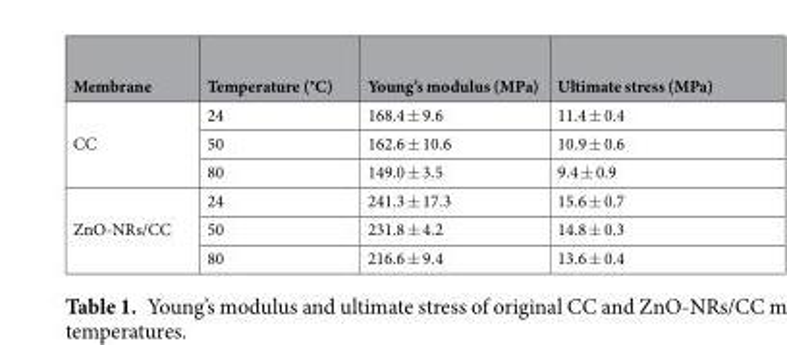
<table><thead><tr><td>Membrane</td><td>Temperature (°C)</td><td>Young’s modulus (MPa)</td><td>Ultimate stress (MPa)</td></tr></thead><tbody><tr><td rowspan="3">CC</td><td>24</td><td>168.4 ± 9.6</td><td>11.4 ± 0.4</td></tr><tr><td>50</td><td>162.6 ± 10.6</td><td>10.9 ± 0.6</td></tr><tr><td>80</td><td>149.0 ± 3.5</td><td>9.4 ± 0.9</td></tr><tr><td rowspan="3">ZnO-NRs/CC</td><td>24</td><td>241.3 ± 17.3</td><td>15.6 ± 0.7</td></tr><tr><td>50</td><td>231.8 ± 4.2</td><td>14.8 ± 0.3</td></tr><tr><td>80</td><td>216.6 ± 9.4</td><td>13.6 ± 0.4</td></tr></tbody></table>